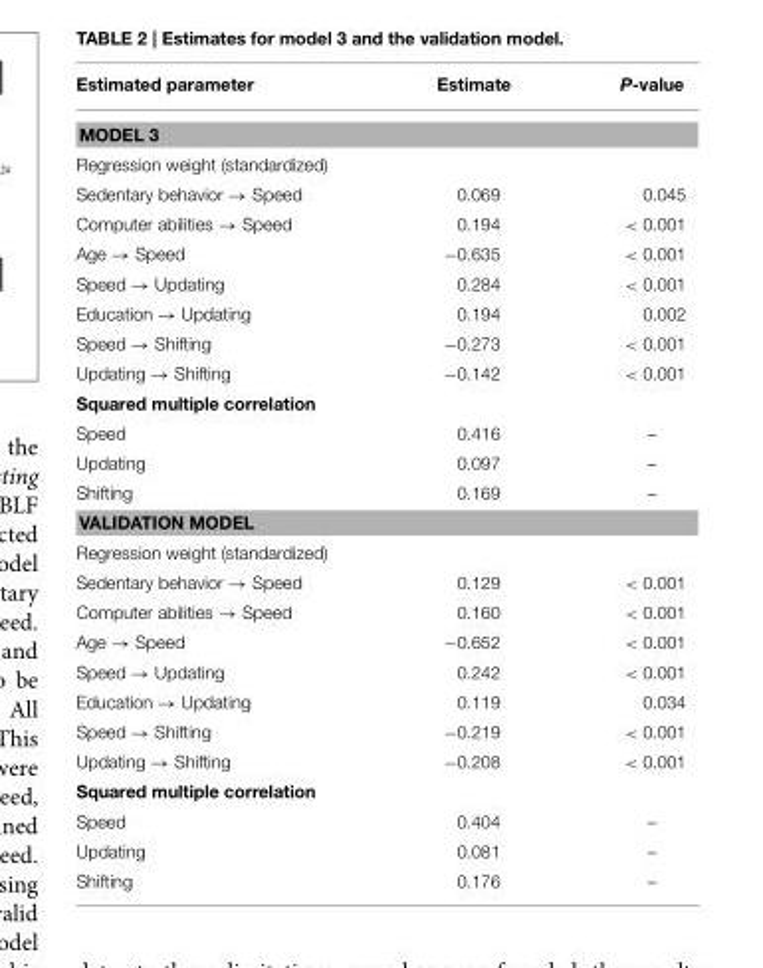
<table><thead><tr><td>Estimated parameter</td><td>Estimate</td><td>P-value</td></tr></thead><tbody><tr><td colspan="3">MODEL 3</td></tr><tr><td colspan="3">Regression weight (standardized)</td></tr><tr><td>Sedentary behavior → Speed</td><td>0.069</td><td>0.045</td></tr><tr><td>Computer abilities → Speed</td><td>0.194</td><td>&lt; 0.001</td></tr><tr><td>Age → Speed</td><td>−0.635</td><td>&lt; 0.001</td></tr><tr><td>Speed → Updating</td><td>0.284</td><td>&lt; 0.001</td></tr><tr><td>Education → Updating</td><td>0.194</td><td>0.002</td></tr><tr><td>Speed → Shifting</td><td>−0.273</td><td>&lt; 0.001</td></tr><tr><td>Updating → Shifting</td><td>−0.142</td><td>&lt; 0.001</td></tr><tr><td colspan="3">Squared multiple correlation</td></tr><tr><td>Speed</td><td>0.416</td><td>–</td></tr><tr><td>Updating</td><td>0.097</td><td>–</td></tr><tr><td>Shifting</td><td>0.169</td><td>–</td></tr><tr><td colspan="3">VALIDATION MODEL</td></tr><tr><td colspan="3">Regression weight (standardized)</td></tr><tr><td>Sedentary behavior → Speed</td><td>0.129</td><td>&lt; 0.001</td></tr><tr><td>Computer abilities → Speed</td><td>0.160</td><td>&lt; 0.001</td></tr><tr><td>Age → Speed</td><td>−0.652</td><td>&lt; 0.001</td></tr><tr><td>Speed → Updating</td><td>0.242</td><td>&lt; 0.001</td></tr><tr><td>Education → Updating</td><td>0.119</td><td>0.034</td></tr><tr><td>Speed → Shifting</td><td>−0.219</td><td>&lt; 0.001</td></tr><tr><td>Updating → Shifting</td><td>−0.208</td><td>&lt; 0.001</td></tr><tr><td colspan="3">Squared multiple correlation</td></tr><tr><td>Speed</td><td>0.404</td><td>–</td></tr><tr><td>Updating</td><td>0.081</td><td>–</td></tr><tr><td>Shifting</td><td>0.176</td><td>–</td></tr></tbody></table>